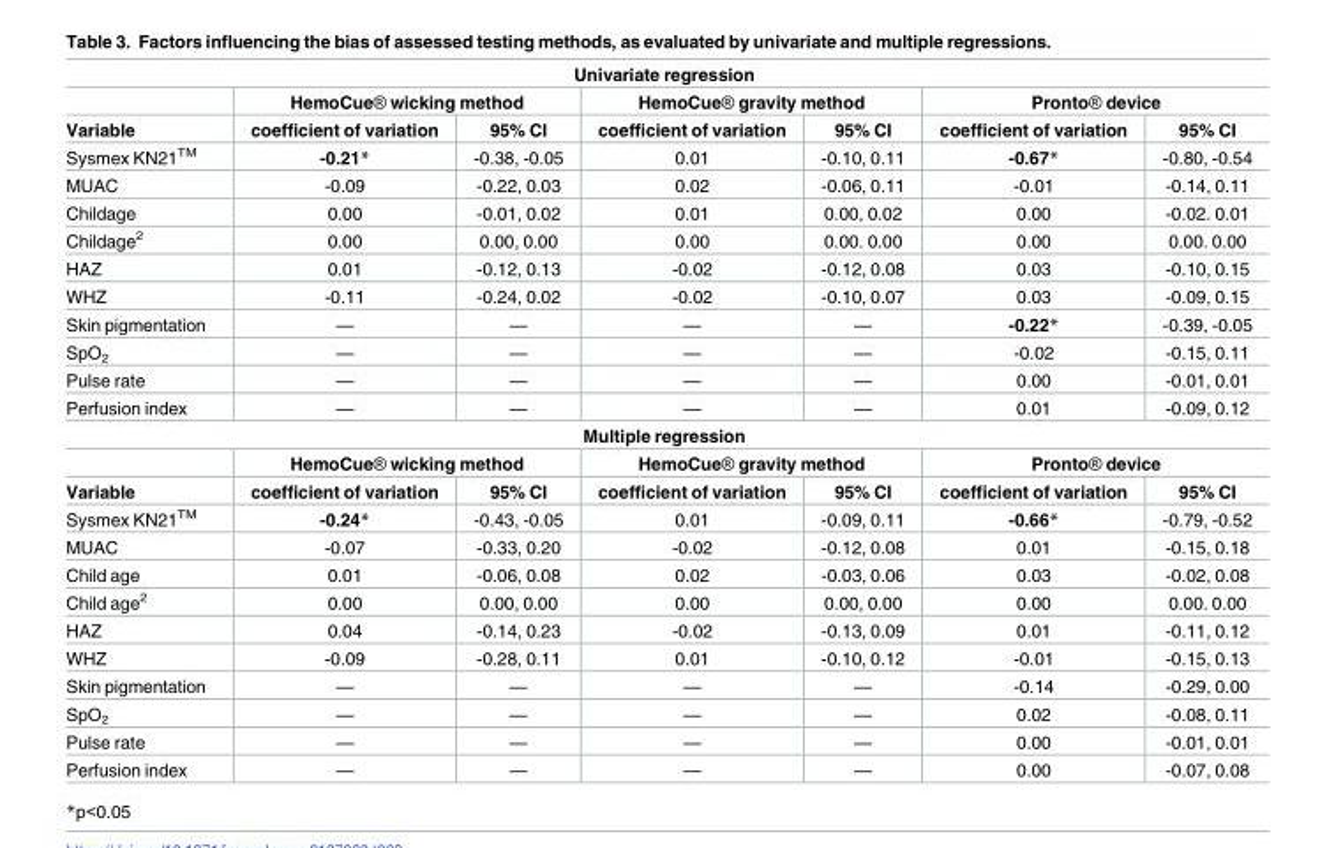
<table><tbody><tr><td colspan="7">Univariate regression</td></tr><tr><td></td><td colspan="2">HemoCue® wicking method</td><td colspan="2">HemoCue® gravity method</td><td colspan="2">Pronto® device</td></tr><tr><td>Variable</td><td>coefficient of variation</td><td>95% CI</td><td>coefficient of variation</td><td>95% CI</td><td>coefficient of variation</td><td>95% CI</td></tr><tr><td>Sysmex KN21<sup>TM</sup></td><td>-0.21*</td><td>-0.38, -0.05</td><td>0.01</td><td>-0.10, 0.11</td><td>-0.67*</td><td>-0.80, -0.54</td></tr><tr><td>MUAC</td><td>-0.09</td><td>-0.22, 0.03</td><td>0.02</td><td>-0.06, 0.11</td><td>-0.01</td><td>-0.14, 0.11</td></tr><tr><td>Childage</td><td>0.00</td><td>-0.01, 0.02</td><td>0.01</td><td>0.00, 0.02</td><td>0.00</td><td>-0.02. 0.01</td></tr><tr><td>Childage<sup>2</sup></td><td>0.00</td><td>0.00, 0.00</td><td>0.00</td><td>0.00. 0.00</td><td>0.00</td><td>0.00. 0.00</td></tr><tr><td>HAZ</td><td>0.01</td><td>-0.12, 0.13</td><td>-0.02</td><td>-0.12, 0.08</td><td>0.03</td><td>-0.10, 0.15</td></tr><tr><td>WHZ</td><td>-0.11</td><td>-0.24, 0.02</td><td>-0.02</td><td>-0.10, 0.07</td><td>0.03</td><td>-0.09, 0.15</td></tr><tr><td>Skin pigmentation</td><td>—</td><td>—</td><td>—</td><td>—</td><td>-0.22*</td><td>-0.39, -0.05</td></tr><tr><td>SpO<sub>2</sub></td><td>—</td><td>—</td><td>—</td><td>—</td><td>-0.02</td><td>-0.15, 0.11</td></tr><tr><td>Pulse rate</td><td>—</td><td>—</td><td>—</td><td>—</td><td>0.00</td><td>-0.01, 0.01</td></tr><tr><td>Perfusion index</td><td>—</td><td>—</td><td>—</td><td>—</td><td>0.01</td><td>-0.09, 0.12</td></tr><tr><td colspan="7">Multiple regression</td></tr><tr><td></td><td colspan="2">HemoCue® wicking method</td><td colspan="2">HemoCue® gravity method</td><td colspan="2">Pronto® device</td></tr><tr><td>Variable</td><td>coefficient of variation</td><td>95% CI</td><td>coefficient of variation</td><td>95% CI</td><td>coefficient of variation</td><td>95% CI</td></tr><tr><td>Sysmex KN21<sup>TM</sup></td><td>-0.24*</td><td>-0.43, -0.05</td><td>0.01</td><td>-0.09, 0.11</td><td>-0.66*</td><td>-0.79, -0.52</td></tr><tr><td>MUAC</td><td>-0.07</td><td>-0.33, 0.20</td><td>-0.02</td><td>-0.12, 0.08</td><td>0.01</td><td>-0.15, 0.18</td></tr><tr><td>Child age</td><td>0.01</td><td>-0.06, 0.08</td><td>0.02</td><td>-0.03, 0.06</td><td>0.03</td><td>-0.02, 0.08</td></tr><tr><td>Child age<sup>2</sup></td><td>0.00</td><td>0.00, 0.00</td><td>0.00</td><td>0.00, 0.00</td><td>0.00</td><td>0.00. 0.00</td></tr><tr><td>HAZ</td><td>0.04</td><td>-0.14, 0.23</td><td>-0.02</td><td>-0.13, 0.09</td><td>0.01</td><td>-0.11, 0.12</td></tr><tr><td>WHZ</td><td>-0.09</td><td>-0.28, 0.11</td><td>0.01</td><td>-0.10, 0.12</td><td>-0.01</td><td>-0.15, 0.13</td></tr><tr><td>Skin pigmentation</td><td>—</td><td>—</td><td>—</td><td>—</td><td>-0.14</td><td>-0.29, 0.00</td></tr><tr><td>SpO<sub>2</sub></td><td>—</td><td>—</td><td>—</td><td>—</td><td>0.02</td><td>-0.08, 0.11</td></tr><tr><td>Pulse rate</td><td>—</td><td>—</td><td>—</td><td>—</td><td>0.00</td><td>-0.01, 0.01</td></tr><tr><td>Perfusion index</td><td>—</td><td>—</td><td>—</td><td>—</td><td>0.00</td><td>-0.07, 0.08</td></tr></tbody></table>